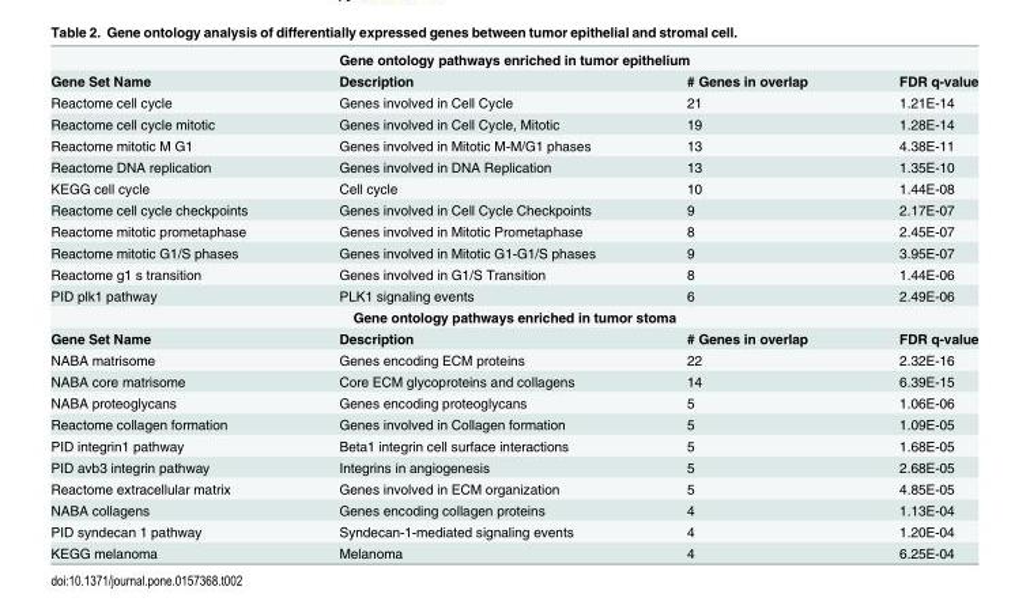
<table><tbody><tr><td colspan="4">Gene ontology pathways enriched in tumor epithelium</td></tr><tr><td>Gene Set Name</td><td>Description</td><td># Genes in overlap</td><td>FDR q-value</td></tr><tr><td>Reactome cell cycle</td><td>Genes involved in Cell Cycle</td><td>21</td><td>1.21E-14</td></tr><tr><td>Reactome cell cycle mitotic</td><td>Genes involved in Cell Cycle, Mitotic</td><td>19</td><td>1.28E-14</td></tr><tr><td>Reactome mitotic M G1</td><td>Genes involved in Mitotic M-M/G1 phases</td><td>13</td><td>4.38E-11</td></tr><tr><td>Reactome DNA replication</td><td>Genes involved in DNA Replication</td><td>13</td><td>1.35E-10</td></tr><tr><td>KEGG cell cycle</td><td>Cell cycle</td><td>10</td><td>1.44E-08</td></tr><tr><td>Reactome cell cycle checkpoints</td><td>Genes involved in Cell Cycle Checkpoints</td><td>9</td><td>2.17E-07</td></tr><tr><td>Reactome mitotic prometaphase</td><td>Genes involved in Mitotic Prometaphase</td><td>8</td><td>2.45E-07</td></tr><tr><td>Reactome mitotic G1/S phases</td><td>Genes involved in Mitotic G1-G1/S phases</td><td>9</td><td>3.95E-07</td></tr><tr><td>Reactome g1 s transition</td><td>Genes involved in G1/S Transition</td><td>8</td><td>1.44E-06</td></tr><tr><td>PID plk1 pathway</td><td>PLK1 signaling events</td><td>6</td><td>2.49E-06</td></tr><tr><td colspan="4">Gene ontology pathways enriched in tumor stoma</td></tr><tr><td>Gene Set Name</td><td>Description</td><td># Genes in overlap</td><td>FDR q-value</td></tr><tr><td>NABA matrisome</td><td>Genes encoding ECM proteins</td><td>22</td><td>2.32E-16</td></tr><tr><td>NABA core matrisome</td><td>Core ECM glycoproteins and collagens</td><td>14</td><td>6.39E-15</td></tr><tr><td>NABA proteoglycans</td><td>Genes encoding proteoglycans</td><td>5</td><td>1.06E-06</td></tr><tr><td>Reactome collagen formation</td><td>Genes involved in Collagen formation</td><td>5</td><td>1.09E-05</td></tr><tr><td>PID integrin1 pathway</td><td>Beta1 integrin cell surface interactions</td><td>5</td><td>1.68E-05</td></tr><tr><td>PID avb3 integrin pathway</td><td>Integrins in angiogenesis</td><td>5</td><td>2.68E-05</td></tr><tr><td>Reactome extracellular matrix</td><td>Genes involved in ECM organization</td><td>5</td><td>4.85E-05</td></tr><tr><td>NABA collagens</td><td>Genes encoding collagen proteins</td><td>4</td><td>1.13E-04</td></tr><tr><td>PID syndecan 1 pathway</td><td>Syndecan-1-mediated signaling events</td><td>4</td><td>1.20E-04</td></tr><tr><td>KEGG melanoma</td><td>Melanoma</td><td>4</td><td>6.25E-04</td></tr></tbody></table>